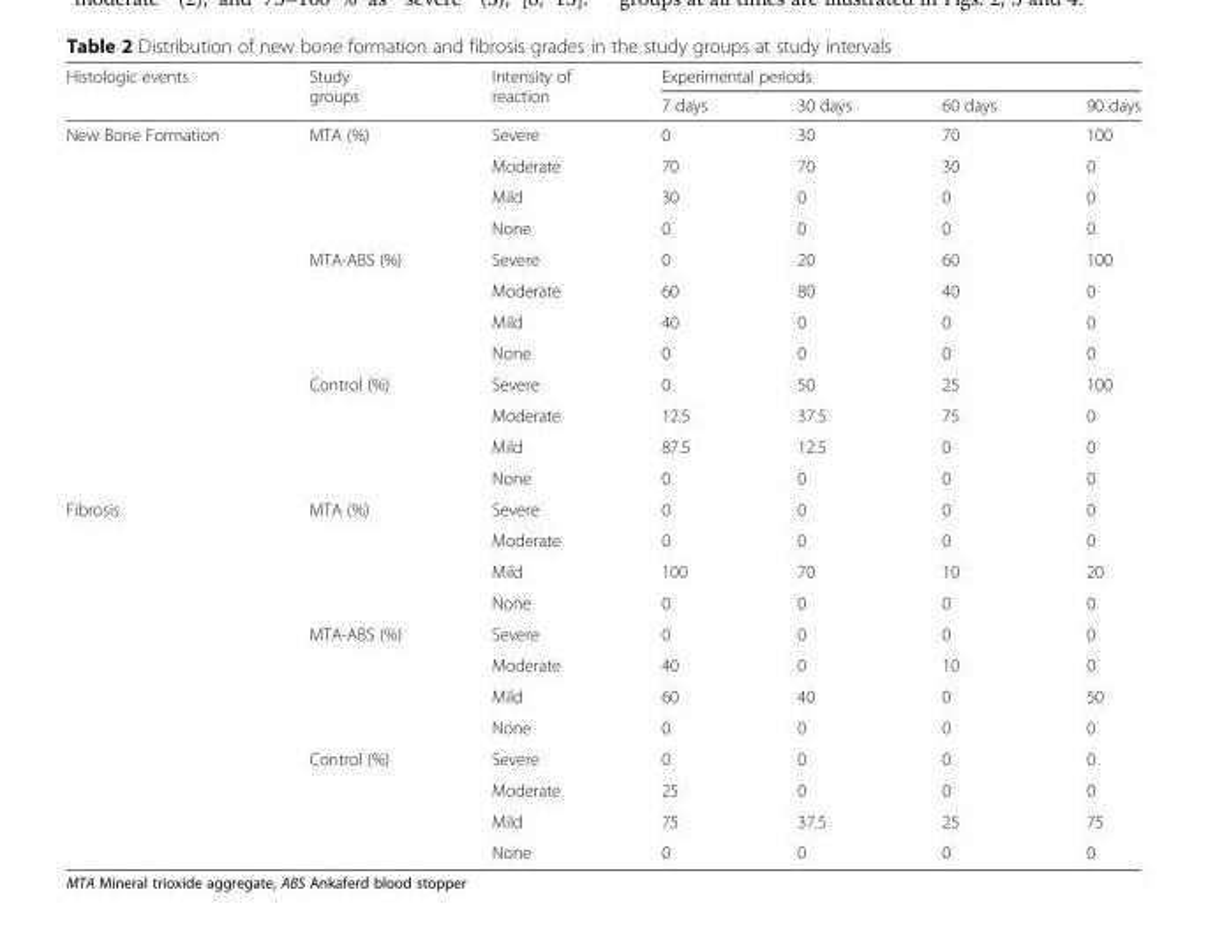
<table><thead><tr><td rowspan="2">Histologic events</td><td rowspan="2">Study groups</td><td rowspan="2">Intensity of reaction</td><td colspan="4">Experimental periods</td></tr><tr><td>7 days</td><td>30 days</td><td>60 days</td><td>90 days</td></tr></thead><tbody><tr><td rowspan="12">New Bone Formation</td><td rowspan="4">MTA (%)</td><td>Severe</td><td>0</td><td>30</td><td>70</td><td>100</td></tr><tr><td>Moderate</td><td>70</td><td>70</td><td>30</td><td>0</td></tr><tr><td>Mild</td><td>30</td><td>0</td><td>0</td><td>0</td></tr><tr><td>None</td><td>0</td><td>0</td><td>0</td><td>0</td></tr><tr><td rowspan="4">MTA-ABS (%)</td><td>Severe</td><td>0</td><td>20</td><td>60</td><td>100</td></tr><tr><td>Moderate</td><td>60</td><td>80</td><td>40</td><td>0</td></tr><tr><td>Mild</td><td>40</td><td>0</td><td>0</td><td>0</td></tr><tr><td>None</td><td>0</td><td>0</td><td>0</td><td>0</td></tr><tr><td rowspan="4">Control (%)</td><td>Severe</td><td>0</td><td>50</td><td>25</td><td>100</td></tr><tr><td>Moderate</td><td>12.5</td><td>37.5</td><td>75</td><td>0</td></tr><tr><td>Mild</td><td>87.5</td><td>12.5</td><td>0</td><td>0</td></tr><tr><td>None</td><td>0</td><td>0</td><td>0</td><td>0</td></tr><tr><td rowspan="12">Fibrosis</td><td rowspan="4">MTA (%)</td><td>Severe</td><td>0</td><td>0</td><td>0</td><td>0</td></tr><tr><td>Moderate</td><td>0</td><td>0</td><td>0</td><td>0</td></tr><tr><td>Mild</td><td>100</td><td>70</td><td>10</td><td>20</td></tr><tr><td>None</td><td>0</td><td>0</td><td>0</td><td>0</td></tr><tr><td rowspan="4">MTA-ABS (%)</td><td>Severe</td><td>0</td><td>0</td><td>0</td><td>0</td></tr><tr><td>Moderate</td><td>40</td><td>0</td><td>10</td><td>0</td></tr><tr><td>Mild</td><td>60</td><td>40</td><td>0</td><td>50</td></tr><tr><td>None</td><td>0</td><td>0</td><td>0</td><td>0</td></tr><tr><td rowspan="4">Control (%)</td><td>Severe</td><td>0</td><td>0</td><td>0</td><td>0</td></tr><tr><td>Moderate</td><td>25</td><td>0</td><td>0</td><td>0</td></tr><tr><td>Mild</td><td>75</td><td>37.5</td><td>25</td><td>75</td></tr><tr><td>None</td><td>0</td><td>0</td><td>0</td><td>0</td></tr></tbody></table>